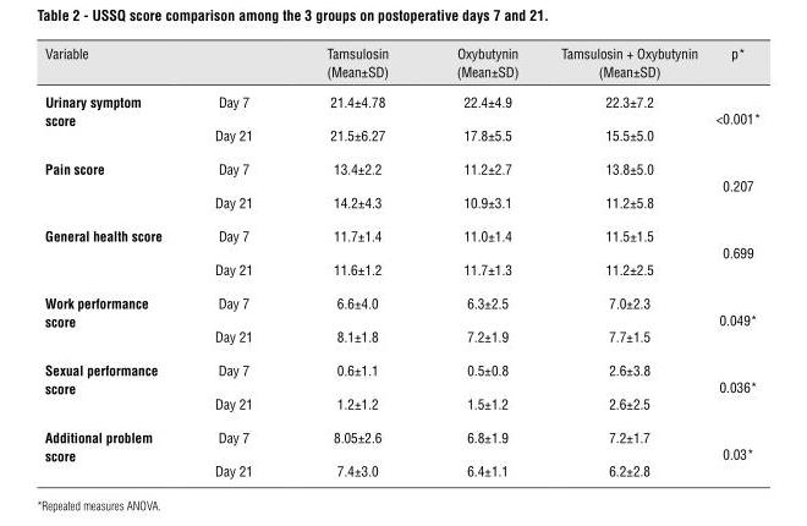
<table><thead><tr><td>Variable</td><td></td><td>Tamsulosin (Mean±SD)</td><td>Oxybutynin (Mean±SD)</td><td>Tamsulosin + Oxybutynin (Mean±SD)</td><td>p*</td></tr></thead><tbody><tr><td rowspan="2">urinary symptom score</td><td>Day 7</td><td>21.4±4.78</td><td>22.4±4.9</td><td>22.3±7.2</td><td rowspan="2">&lt;0.001*</td></tr><tr><td>Day 21</td><td>21.5±6.27</td><td>17.8±5.5</td><td>15.5±5.0</td></tr><tr><td rowspan="2">pain score</td><td>Day 7</td><td>13.4±2.2</td><td>11.2±2.7</td><td>13.8±5.0</td><td rowspan="2">0.207</td></tr><tr><td>Day 21</td><td>14.2±4.3</td><td>10.9±3.1</td><td>11.2±5.8</td></tr><tr><td rowspan="2">general health score</td><td>Day 7</td><td>11.7±1.4</td><td>11.0±1.4</td><td>11.5±1.5</td><td rowspan="2">0.699</td></tr><tr><td>Day 21</td><td>11.6±1.2</td><td>11.7±1.3</td><td>11.2±2.5</td></tr><tr><td rowspan="2">work performance score</td><td>Day 7</td><td>6.6±4.0</td><td>6.3±2.5</td><td>7.0±2.3</td><td rowspan="2">0.049*</td></tr><tr><td>Day 21</td><td>8.1±1.8</td><td>7.2±1.9</td><td>7.7±1.5</td></tr><tr><td rowspan="2">sexual performance score</td><td>Day 7</td><td>0.6±1.1</td><td>0.5±0.8</td><td>2.6±3.8</td><td rowspan="2">0.036*</td></tr><tr><td>Day 21</td><td>1.2±1.2</td><td>1.5±1.2</td><td>2.6±2.5</td></tr><tr><td rowspan="2">Additional problem score</td><td>Day 7</td><td>8.05±2.6</td><td>6.8±1.9</td><td>7.2±1.7</td><td rowspan="2">0.03*</td></tr><tr><td>Day 21</td><td>7.4±3.0</td><td>6.4±1.1</td><td>6.2±2.8</td></tr></tbody></table>